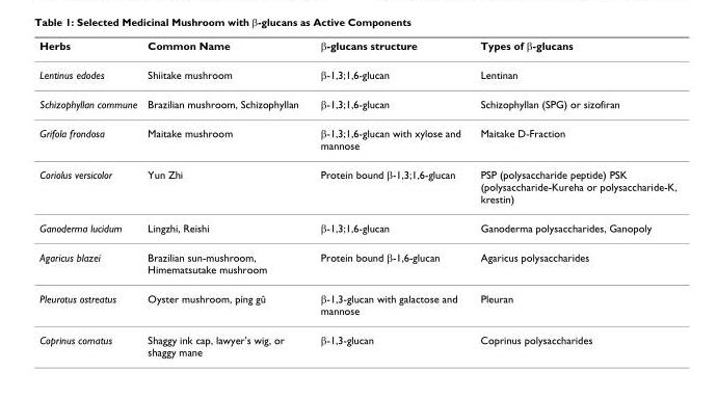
<table><thead><tr><td>Herbs</td><td>Common Name</td><td>β-glucans structure</td><td>Types of β-glucans</td></tr></thead><tbody><tr><td>Lentinus edodes</td><td>Shiitake mushroom</td><td>β-1,3;1,6-glucan</td><td>Lentinan</td></tr><tr><td>Schizophyllan commune</td><td>Brazilian mushroom, Schizophyllan</td><td>β-1,3;1,6-glucan</td><td>Schizophyllan (SPG) or sizofiran</td></tr><tr><td>Grifola frondosa</td><td>Maitake mushroom</td><td>β-1,3;1,6-glucan with xylose and mannose</td><td>Maitake D-Fraction</td></tr><tr><td>Coriolus versicolor</td><td>Yun Zhi</td><td>Protein bound β-1,3;1,6-glucan</td><td>PSP (polysaccharide peptide) PSK (polysaccharide-Kureha or polysaccharide-K, krestin)</td></tr><tr><td>Ganoderma lucidum</td><td>Lingzhi, Reishi</td><td>β-1,3;1,6-glucan</td><td>Ganoderma polysaccharides, Ganopoly</td></tr><tr><td>Agaricus blazei</td><td>Brazilian sun-mushroom, Himematsutake mushroom</td><td>Protein bound β-1,6-glucan</td><td>Agaricus polysaccharides</td></tr><tr><td>Pleurotus ostreatus</td><td>Oyster mushroom, píng gû</td><td>β-1,3-glucan with galactose and mannose</td><td>Pleuran</td></tr><tr><td>Coprinus comatus</td><td>Shaggy ink cap, lawyer&#x27;s wig, or shaggy mane</td><td>β-1,3-glucan</td><td>Coprinus polysaccharides</td></tr></tbody></table>